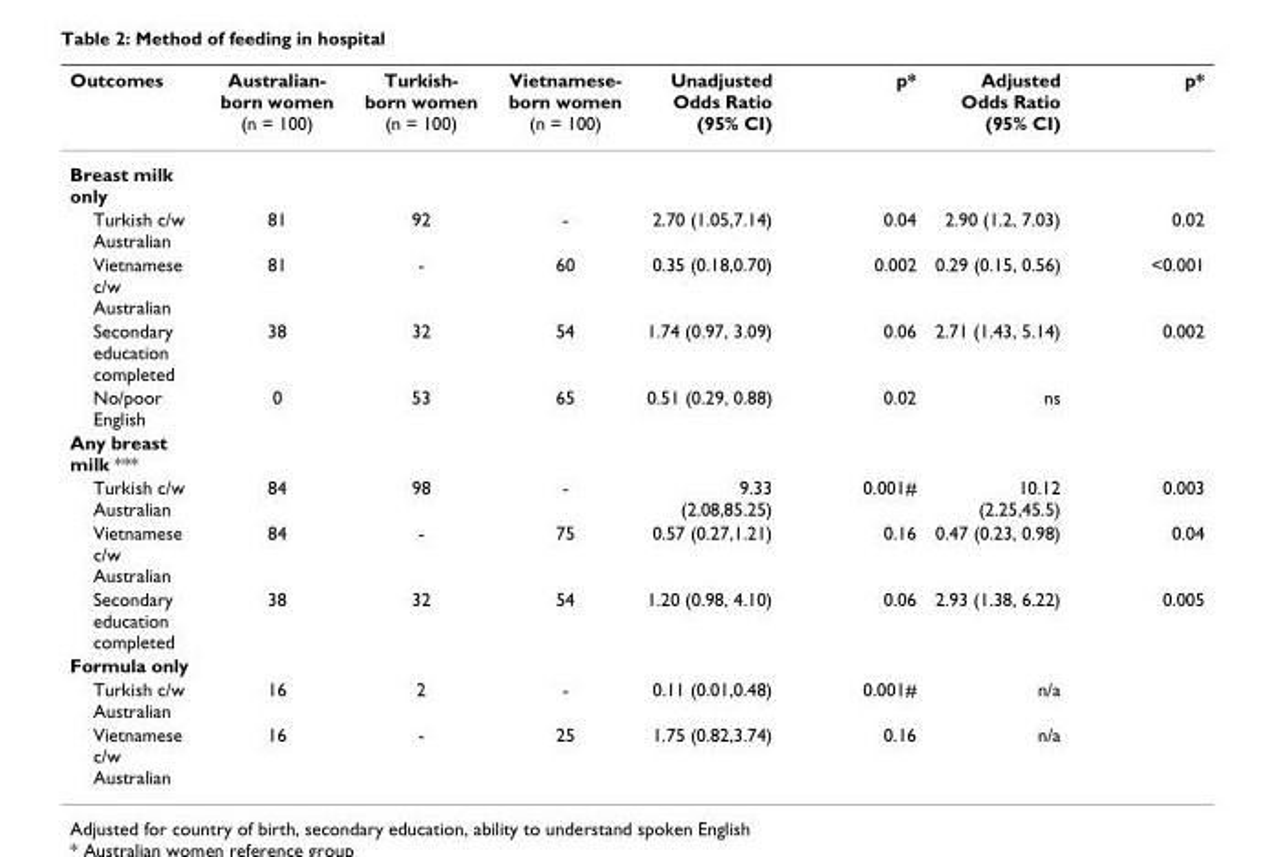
<table><thead><tr><td>Outcomes</td><td>Australian- born women (n = 100)</td><td>Turkish- born women (n = 100)</td><td>Vietnamese- born women (n = 100)</td><td>Unadjusted Odds Ratio (95% CI)</td><td>p*</td><td>Adjusted Odds Ratio (95% CI)</td><td>p*</td></tr></thead><tbody><tr><td colspan="8">Breast milk only</td></tr><tr><td>Turkish c/w Australian</td><td>81</td><td>92</td><td>-</td><td>2.70 (1.05,7.14)</td><td>0.04</td><td>2.90 (1.2, 7.03)</td><td>0.02</td></tr><tr><td>Vietnamese c/w Australian</td><td>81</td><td>-</td><td>60</td><td>0.35 (0.18,0.70)</td><td>0.002</td><td>0.29 (0.15, 0.56)</td><td>&lt;0.001</td></tr><tr><td>Secondary education completed</td><td>38</td><td>32</td><td>54</td><td>1.74 (0.97, 3.09)</td><td>0.06</td><td>2.71 (1.43, 5.14)</td><td>0.002</td></tr><tr><td>No/poor English</td><td>0</td><td>53</td><td>65</td><td>0.51 (0.29, 0.88)</td><td>0.02</td><td>ns</td><td></td></tr><tr><td colspan="8">Any breast milk ***</td></tr><tr><td>Turkish c/w Australian</td><td>84</td><td>98</td><td>-</td><td>9.33 (2.08,85.25)</td><td>0.001#</td><td>10.12 (2.25,45.5)</td><td>0.003</td></tr><tr><td>Vietnamese c/w Australian</td><td>84</td><td>-</td><td>75</td><td>0.57 (0.27,1.21)</td><td>0.16</td><td>0.47 (0.23, 0.98)</td><td>0.04</td></tr><tr><td>Secondary education completed</td><td>38</td><td>32</td><td>54</td><td>1.20 (0.98, 4.10)</td><td>0.06</td><td>2.93 (1.38, 6.22)</td><td>0.005</td></tr><tr><td colspan="8">Formula only</td></tr><tr><td>Turkish c/w Australian</td><td>16</td><td>2</td><td>-</td><td>0.11 (0.01,0.48)</td><td>0.001#</td><td>n/a</td><td></td></tr><tr><td>Vietnamese c/w Australian</td><td>16</td><td>-</td><td>25</td><td>1.75 (0.82,3.74)</td><td>0.16</td><td>n/a</td><td></td></tr></tbody></table>